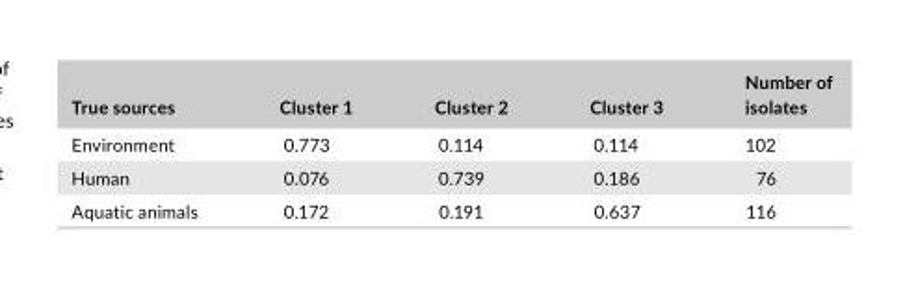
<table><thead><tr><td>True sources</td><td>Cluster 1</td><td>Cluster 2</td><td>Cluster 3</td><td>Number of isolates</td></tr></thead><tbody><tr><td>Environment</td><td>0.773</td><td>0.114</td><td>0.114</td><td>102</td></tr><tr><td>Human</td><td>0.076</td><td>0.739</td><td>0.186</td><td>76</td></tr><tr><td>Aquatic animals</td><td>0.172</td><td>0.191</td><td>0.637</td><td>116</td></tr></tbody></table>